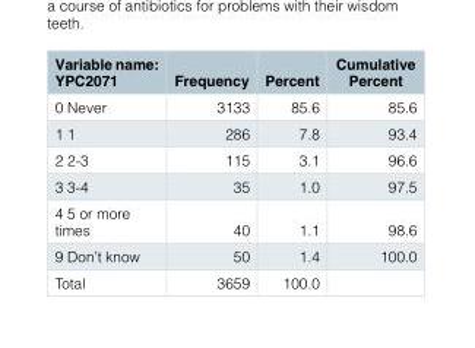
<table><thead><tr><td>Variable name: YPC2071</td><td>Frequency</td><td>Percent</td><td>Cumulative Percent</td></tr></thead><tbody><tr><td>0 Never</td><td>3133</td><td>85.6</td><td>85.6</td></tr><tr><td>1 1</td><td>286</td><td>7.8</td><td>93.4</td></tr><tr><td>2 2-3</td><td>115</td><td>3.1</td><td>96.6</td></tr><tr><td>3 3-4</td><td>35</td><td>1.0</td><td>97.5</td></tr><tr><td>4 5 or more times</td><td>40</td><td>1.1</td><td>98.6</td></tr><tr><td>9 Don’t know</td><td>50</td><td>1.4</td><td>100.0</td></tr><tr><td>Total</td><td>3659</td><td>100.0</td><td></td></tr></tbody></table>